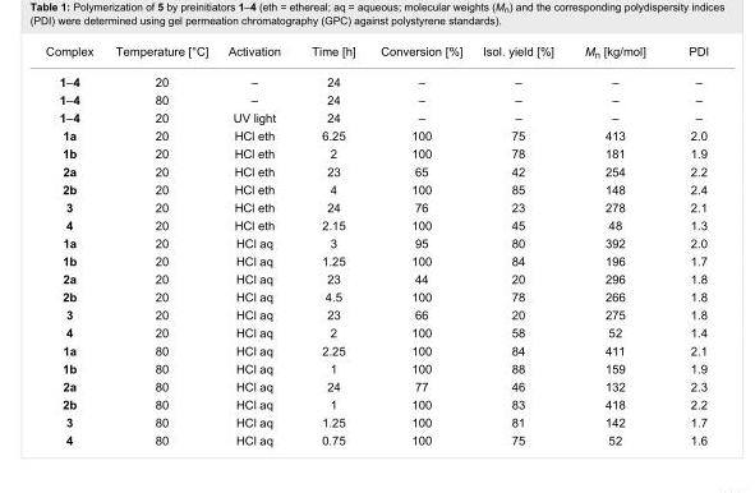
<table><tbody><tr><td>Complex</td><td>Temperature [°C]</td><td>Activation</td><td>Time [h]</td><td>Conversion [%]</td><td>Isol. yield [%]</td><td>M<sub>n</sub> [kg/mol]</td><td>PDI</td></tr><tr><td>1–4</td><td>20</td><td>–</td><td>24</td><td>–</td><td>–</td><td>–</td><td>–</td></tr><tr><td>1–4</td><td>80</td><td>–</td><td>24</td><td>–</td><td>–</td><td>–</td><td>–</td></tr><tr><td>1–4</td><td>20</td><td>UV light</td><td>24</td><td>–</td><td>–</td><td>–</td><td>–</td></tr><tr><td>1a</td><td>20</td><td>HCl eth</td><td>6.25</td><td>100</td><td>75</td><td>413</td><td>2.0</td></tr><tr><td>1b</td><td>20</td><td>HCl eth</td><td>2</td><td>100</td><td>78</td><td>181</td><td>1.9</td></tr><tr><td>2a</td><td>20</td><td>HCl eth</td><td>23</td><td>65</td><td>42</td><td>254</td><td>2.2</td></tr><tr><td>2b</td><td>20</td><td>HCl eth</td><td>4</td><td>100</td><td>85</td><td>148</td><td>2.4</td></tr><tr><td>3</td><td>20</td><td>HCl eth</td><td>24</td><td>76</td><td>23</td><td>278</td><td>2.1</td></tr><tr><td>4</td><td>20</td><td>HCl eth</td><td>2.15</td><td>100</td><td>45</td><td>48</td><td>1.3</td></tr><tr><td>1a</td><td>20</td><td>HCl aq</td><td>3</td><td>95</td><td>80</td><td>392</td><td>2.0</td></tr><tr><td>1b</td><td>20</td><td>HCl aq</td><td>1.25</td><td>100</td><td>84</td><td>196</td><td>1.7</td></tr><tr><td>2a</td><td>20</td><td>HCl aq</td><td>23</td><td>44</td><td>20</td><td>296</td><td>1.8</td></tr><tr><td>2b</td><td>20</td><td>HCl aq</td><td>4.5</td><td>100</td><td>78</td><td>266</td><td>1.8</td></tr><tr><td>3</td><td>20</td><td>HCl aq</td><td>23</td><td>66</td><td>20</td><td>275</td><td>1.8</td></tr><tr><td>4</td><td>20</td><td>HCl aq</td><td>2</td><td>100</td><td>58</td><td>52</td><td>1.4</td></tr><tr><td>1a</td><td>80</td><td>HCl aq</td><td>2.25</td><td>100</td><td>84</td><td>411</td><td>2.1</td></tr><tr><td>1b</td><td>80</td><td>HCl aq</td><td>1</td><td>100</td><td>88</td><td>159</td><td>1.9</td></tr><tr><td>2a</td><td>80</td><td>HCl aq</td><td>24</td><td>77</td><td>46</td><td>132</td><td>2.3</td></tr><tr><td>2b</td><td>80</td><td>HCl aq</td><td>1</td><td>100</td><td>83</td><td>418</td><td>2.2</td></tr><tr><td>3</td><td>80</td><td>HCl aq</td><td>1.25</td><td>100</td><td>81</td><td>142</td><td>1.7</td></tr><tr><td>4</td><td>80</td><td>HCl aq</td><td>0.75</td><td>100</td><td>75</td><td>52</td><td>1.6</td></tr></tbody></table>